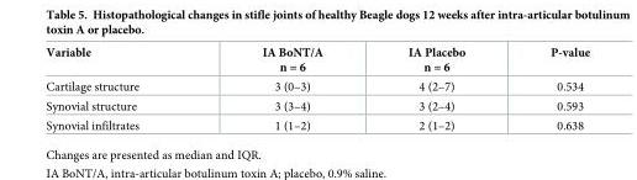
<table><thead><tr><td>Variable</td><td>IA BoNT/A n = 6</td><td>IA Placebo n = 6</td><td>P-value</td></tr></thead><tbody><tr><td>Cartilage structure</td><td>3 (0–3)</td><td>4 (2–7)</td><td>0.534</td></tr><tr><td>Synovial structure</td><td>3 (3–4)</td><td>3 (2–4)</td><td>0.593</td></tr><tr><td>Synovial infiltrates</td><td>1 (1–2)</td><td>2 (1–2)</td><td>0.638</td></tr></tbody></table>